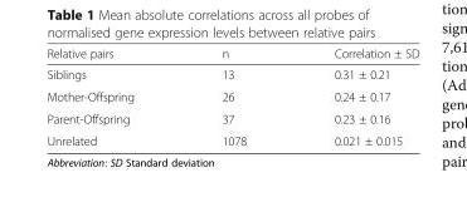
<table><thead><tr><td>Relative pairs</td><td>n</td><td>Correlation ± SD</td></tr></thead><tbody><tr><td>Siblings</td><td>13</td><td>0.31 ± 0.21</td></tr><tr><td>Mother-Offspring</td><td>26</td><td>0.24 ± 0.17</td></tr><tr><td>Parent-Offspring</td><td>37</td><td>0.23 ± 0.16</td></tr><tr><td>Unrelated</td><td>1078</td><td>0.021 ± 0.015</td></tr></tbody></table>